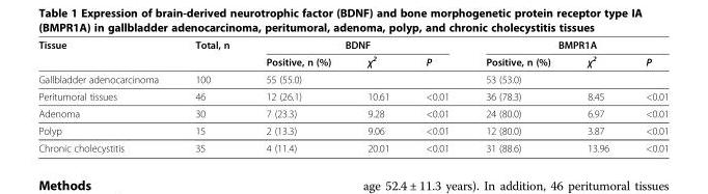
<table><thead><tr><td rowspan="2">Tissue</td><td rowspan="2">Total, n</td><td colspan="3">BDNF</td><td colspan="3">BMPR1A</td></tr><tr><td>Positive, n (%)</td><td>χ<sup>2</sup></td><td>P</td><td>Positive, n (%)</td><td>χ<sup>2</sup></td><td>P</td></tr></thead><tbody><tr><td>Gallbladder adenocarcinoma</td><td>100</td><td>55 (55.0)</td><td></td><td></td><td>53 (53.0)</td><td></td><td></td></tr><tr><td>Peritumoral tissues</td><td>46</td><td>12 (26.1)</td><td>10.61</td><td>&lt;0.01</td><td>36 (78.3)</td><td>8.45</td><td>&lt;0.01</td></tr><tr><td>Adenoma</td><td>30</td><td>7 (23.3)</td><td>9.28</td><td>&lt;0.01</td><td>24 (80.0)</td><td>6.97</td><td>&lt;0.01</td></tr><tr><td>Polyp</td><td>15</td><td>2 (13.3)</td><td>9.06</td><td>&lt;0.01</td><td>12 (80.0)</td><td>3.87</td><td>&lt;0.01</td></tr><tr><td>Chronic cholecystitis</td><td>35</td><td>4 (11.4)</td><td>20.01</td><td>&lt;0.01</td><td>31 (88.6)</td><td>13.96</td><td>&lt;0.01</td></tr></tbody></table>